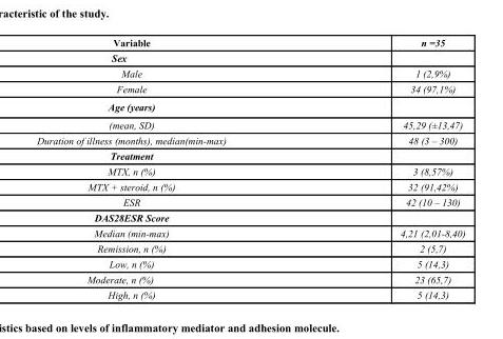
<table><thead><tr><td>Variable</td><td>n =35</td></tr></thead><tbody><tr><td colspan="2">Sex</td></tr><tr><td>Male</td><td>1 (2,9%)</td></tr><tr><td>Female</td><td>34 (97,1%)</td></tr><tr><td colspan="2">Age (years)</td></tr><tr><td>(mean, SD)</td><td>45,29 (±13,47)</td></tr><tr><td>Duration of illness (months), median(min-max)</td><td>48 (3 – 300)</td></tr><tr><td colspan="2">Treatment</td></tr><tr><td>MTX, n (%)</td><td>3 (8,57%)</td></tr><tr><td>MTX + steroid, n (%)</td><td>32 (91,42%)</td></tr><tr><td>ESR</td><td>42 (10 – 130)</td></tr><tr><td colspan="2">DAS28ESR Score</td></tr><tr><td>Median (min-max)</td><td>4,21 (2,01-8,40)</td></tr><tr><td>Remission, n (%)</td><td>2 (5,7)</td></tr><tr><td>Low, n (%)</td><td>5 (14,3)</td></tr><tr><td>Moderate, n (%)</td><td>23 (65,7)</td></tr><tr><td>High, n (%)</td><td>5 (14,3)</td></tr></tbody></table>